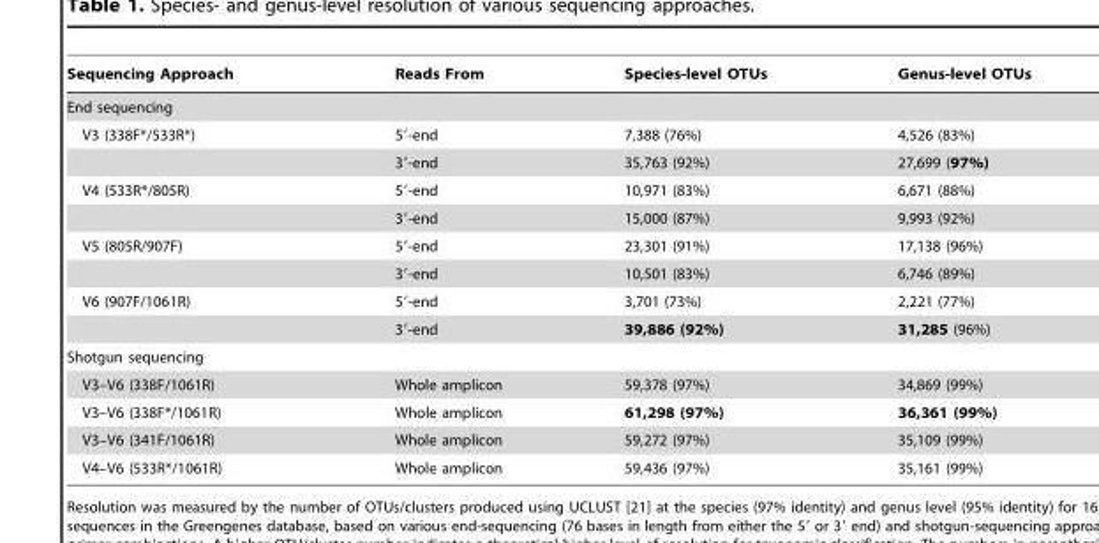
<table><thead><tr><td>Sequencing Approach</td><td>Reads From</td><td>Species-level OTUs</td><td>Genus-level OTUs</td></tr></thead><tbody><tr><td colspan="4">End sequencing</td></tr><tr><td rowspan="2">V3 (338F*/533R*)</td><td>5′-end</td><td>7,388 (76%)</td><td>4,526 (83%)</td></tr><tr><td>3′-end</td><td>35,763 (92%)</td><td>27,699 (97%)</td></tr><tr><td rowspan="2">V4 (533R*/805R)</td><td>5′-end</td><td>10,971 (83%)</td><td>6,671 (88%)</td></tr><tr><td>3′-end</td><td>15,000 (87%)</td><td>9,993 (92%)</td></tr><tr><td rowspan="2">V5 (805R/907F)</td><td>5′-end</td><td>23,301 (91%)</td><td>17,138 (96%)</td></tr><tr><td>3′-end</td><td>10,501 (83%)</td><td>6,746 (89%)</td></tr><tr><td rowspan="2">V6 (907F/1061R)</td><td>5′-end</td><td>3,701 (73%)</td><td>2,221 (77%)</td></tr><tr><td>3′-end</td><td>39,886 (92%)</td><td>31,285 (96%)</td></tr><tr><td colspan="4">Shotgun sequencing</td></tr><tr><td>V3–V6 (338F/1061R)</td><td>Whole amplicon</td><td>59,378 (97%)</td><td>34,869 (99%)</td></tr><tr><td>V3–V6 (338F*/1061R)</td><td>Whole amplicon</td><td>61,298 (97%)</td><td>36,361 (99%)</td></tr><tr><td>V3–V6 (341F/1061R)</td><td>Whole amplicon</td><td>59,272 (97%)</td><td>35,109 (99%)</td></tr><tr><td>V4–V6 (533R*/1061R)</td><td>Whole amplicon</td><td>59,436 (97%)</td><td>35,161 (99%)</td></tr></tbody></table>